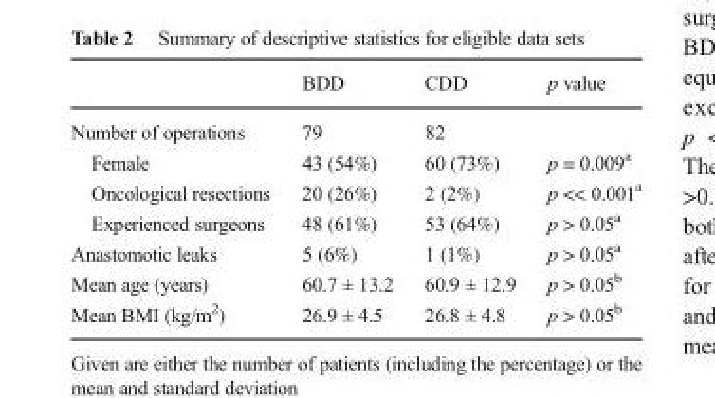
<table><thead><tr><td></td><td>BDD</td><td>CDD</td><td>p value</td></tr></thead><tbody><tr><td>Number of operations</td><td>79</td><td>82</td><td></td></tr><tr><td>Female</td><td>43 (54%)</td><td>60 (73%)</td><td>p = 0.009<sup>a</sup></td></tr><tr><td>Oncological resections</td><td>20 (26%)</td><td>2 (2%)</td><td>p &lt;&lt; 0.001<sup>a</sup></td></tr><tr><td>Experienced surgeons</td><td>48 (61%)</td><td>53 (64%)</td><td>p &gt; 0.05<sup>a</sup></td></tr><tr><td>Anastomotic leaks</td><td>5 (6%)</td><td>1 (1%)</td><td>p &gt; 0.05<sup>a</sup></td></tr><tr><td>Mean age (years)</td><td>60.7 ± 13.2</td><td>60.9 ± 12.9</td><td>p &gt; 0.05<sup>b</sup></td></tr><tr><td>Mean BMI (kg/m<sup>2</sup>)</td><td>26.9 ± 4.5</td><td>26.8 ± 4.8</td><td>p &gt; 0.05<sup>b</sup></td></tr></tbody></table>